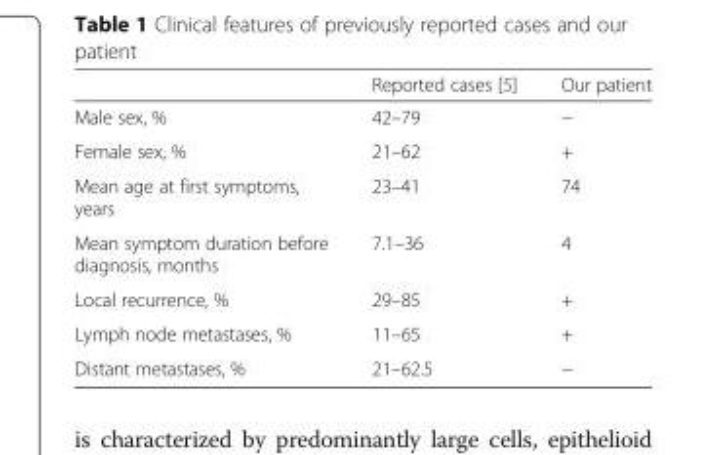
<table><thead><tr><td></td><td>Reported cases [5]</td><td>Our patient</td></tr></thead><tbody><tr><td>Male sex, %</td><td>42–79</td><td>−</td></tr><tr><td>Female sex, %</td><td>21–62</td><td>+</td></tr><tr><td>Mean age at first symptoms, years</td><td>23–41</td><td>74</td></tr><tr><td>Mean symptom duration before diagnosis, months</td><td>7.1–36</td><td>4</td></tr><tr><td>Local recurrence, %</td><td>29–85</td><td>+</td></tr><tr><td>Lymph node metastases, %</td><td>11–65</td><td>+</td></tr><tr><td>Distant metastases, %</td><td>21–62.5</td><td>−</td></tr></tbody></table>